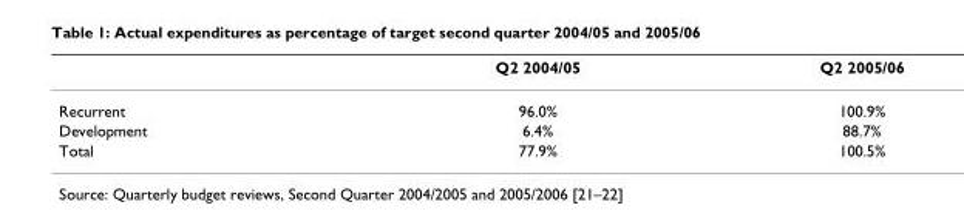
<table><thead><tr><td></td><td>Q2 2004/05</td><td>Q2 2005/06</td></tr></thead><tbody><tr><td>Recurrent</td><td>96.0%</td><td>100.9%</td></tr><tr><td>Development</td><td>6.4%</td><td>88.7%</td></tr><tr><td>Total</td><td>77.9%</td><td>100.5%</td></tr></tbody></table>